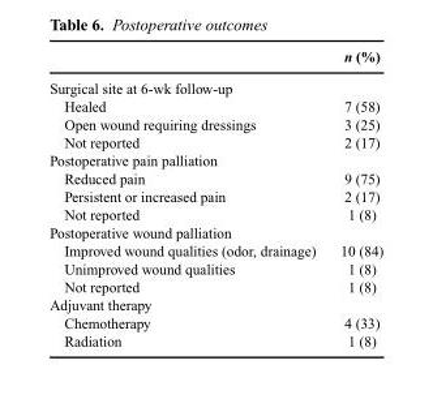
<table><thead><tr><td></td><td>n (%)</td></tr></thead><tbody><tr><td colspan="2">Surgical site at 6-wk follow-up</td></tr><tr><td>Healed</td><td>7 (58)</td></tr><tr><td>Open wound requiring dressings</td><td>3 (25)</td></tr><tr><td>Not reported</td><td>2 (17)</td></tr><tr><td colspan="2">Postoperative pain palliation</td></tr><tr><td>Reduced pain</td><td>9 (75)</td></tr><tr><td>Persistent or increased pain</td><td>2 (17)</td></tr><tr><td>Not reported</td><td>1 (8)</td></tr><tr><td colspan="2">Postoperative wound palliation</td></tr><tr><td>Improved wound qualities (odor, drainage)</td><td>10 (84)</td></tr><tr><td>Unimproved wound qualities</td><td>1 (8)</td></tr><tr><td>Not reported</td><td>1 (8)</td></tr><tr><td colspan="2">Adjuvant therapy</td></tr><tr><td>Chemotherapy</td><td>4 (33)</td></tr><tr><td>Radiation</td><td>1 (8)</td></tr></tbody></table>